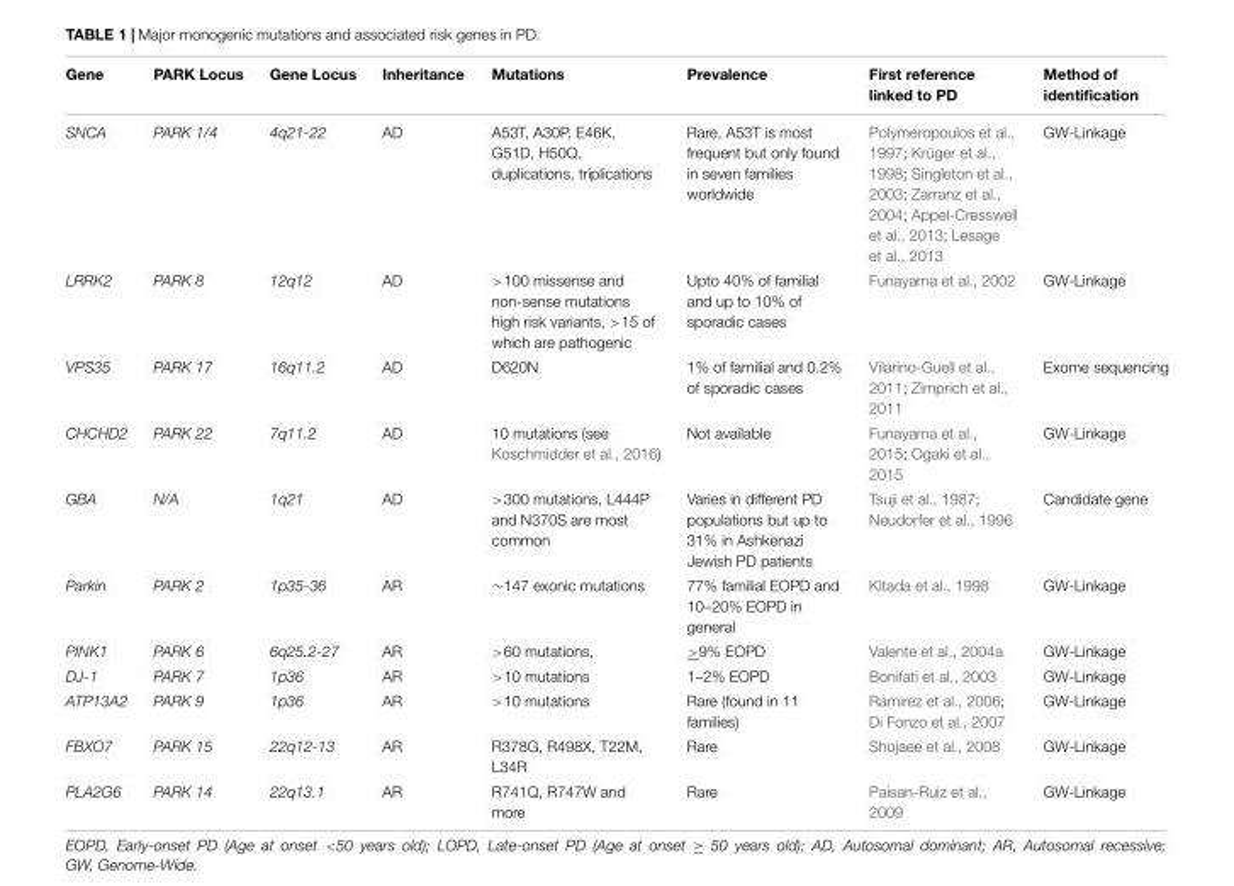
<table><thead><tr><td>Gene</td><td>PARK Locus</td><td>Gene Locus</td><td>Inheritance</td><td>Mutations</td><td>Prevalence</td><td>First reference linked to PD</td><td>Method of identification</td></tr></thead><tbody><tr><td>SNCA</td><td>PARK 1/4</td><td>4q21-22</td><td>AD</td><td>A53T, A30P, E46K, G51D, H50Q, duplications, triplications</td><td>Rare, A53T is most frequent but only found in seven families worldwide</td><td>Polymeropoulos et al., 1997; Krüger et al., 1998; Singleton et al., 2003; Zarranz et al., 2004; Appel-Cresswell et al., 2013; Lesage et al., 2013</td><td>GW-Linkage</td></tr><tr><td>LRRK2</td><td>PARK 8</td><td>12q12</td><td>AD</td><td>&gt;100 missense and non-sense mutations high risk variants, &gt;15 of which are pathogenic</td><td>Upto 40% of familial and up to 10% of sporadic cases</td><td>Funayama et al., 2002</td><td>GW-Linkage</td></tr><tr><td>VPS35</td><td>PARK 17</td><td>16q11.2</td><td>AD</td><td>D620N</td><td>1% of familial and 0.2% of sporadic cases</td><td>Vilarino-Guell et al., 2011; Zimprich et al., 2011</td><td>Exome sequencing</td></tr><tr><td>CHCHD2</td><td>PARK 22</td><td>7q11.2</td><td>AD</td><td>10 mutations (see Koschmidder et al., 2016)</td><td>Not available</td><td>Funayama et al., 2015; Ogaki et al., 2015</td><td>GW-Linkage</td></tr><tr><td>GBA</td><td>N/A</td><td>1q21</td><td>AD</td><td>&gt;300 mutations, L444P and N370S are most common</td><td>Varies in different PD populations but up to 31% in Ashkenazi Jewish PD patients</td><td>Tsuji et al., 1987; Neudorfer et al., 1996</td><td>Candidate gene</td></tr><tr><td>Parkin</td><td>PARK 2</td><td>1p35-36</td><td>AR</td><td>∼147 exonic mutations</td><td>77% familial EOPD and 10–20% EOPD in general</td><td>Kitada et al., 1998</td><td>GW-Linkage</td></tr><tr><td>PINK1</td><td>PARK 6</td><td>6q25.2-27</td><td>AR</td><td>&gt;60 mutations,</td><td>&gt;9% EOPD</td><td>Valente et al., 2004a</td><td>GW-Linkage</td></tr><tr><td>DJ-1</td><td>PARK 7</td><td>1p36</td><td>AR</td><td>&gt;10 mutations</td><td>1–2% EOPD</td><td>Bonifati et al., 2003</td><td>GW-Linkage</td></tr><tr><td>ATP13A2</td><td>PARK 9</td><td>1p36</td><td>AR</td><td>&gt;10 mutations</td><td>Rare (found in 11 families)</td><td>Ramirez et al., 2006; Di Fonzo et al., 2007</td><td>GW-Linkage</td></tr><tr><td>FBXO7</td><td>PARK 15</td><td>22q12-13</td><td>AR</td><td>R378G, R498X, T22M, L34R</td><td>Rare</td><td>Shojaee et al., 2008</td><td>GW-Linkage</td></tr><tr><td>PLA2G6</td><td>PARK 14</td><td>22q13.1</td><td>AR</td><td>R741Q, R747W and more</td><td>Rare</td><td>Paisan-Ruiz et al., 2009</td><td>GW-Linkage</td></tr></tbody></table>